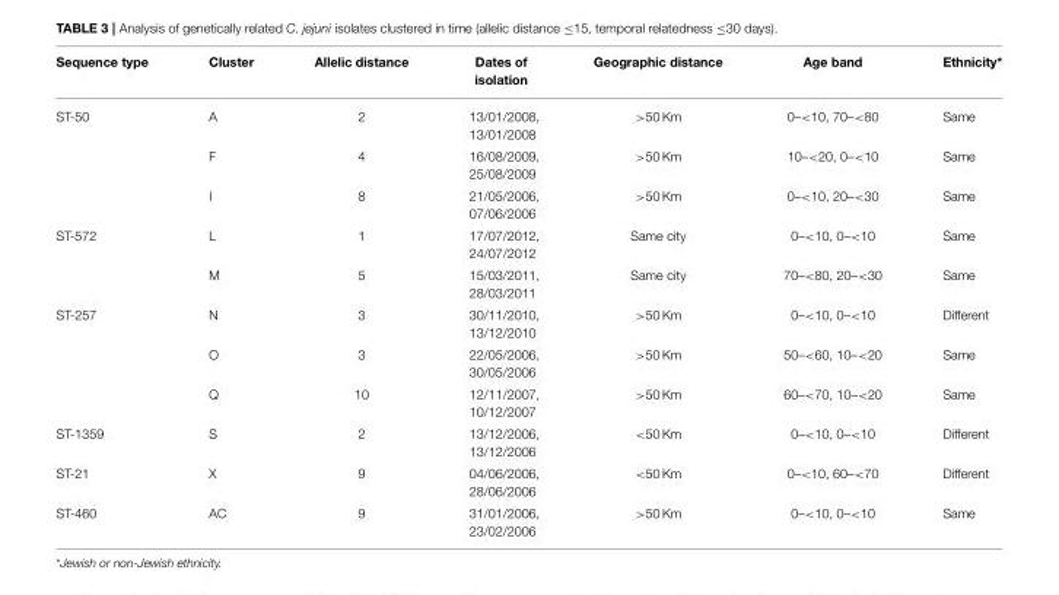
<table><thead><tr><td>Sequence type</td><td>Cluster</td><td>Allelic distance</td><td>Dates of isolation</td><td>Geographic distance</td><td>Age band</td><td>Ethnicity*</td></tr></thead><tbody><tr><td rowspan="3">ST-50</td><td>A</td><td>2</td><td>13/01/2008, 13/01/2008</td><td>&gt;50 Km</td><td>0–&lt;10, 70–&lt;80</td><td>Same</td></tr><tr><td>F</td><td>4</td><td>16/08/2009, 25/08/2009</td><td>&gt;50 Km</td><td>10–&lt;20, 0–&lt;10</td><td>Same</td></tr><tr><td>I</td><td>8</td><td>21/05/2006, 07/06/2006</td><td>&gt;50 Km</td><td>0–&lt;10, 20–&lt;30</td><td>Same</td></tr><tr><td rowspan="2">ST-572</td><td>L</td><td>1</td><td>17/07/2012, 24/07/2012</td><td>Same city</td><td>0–&lt;10, 0–&lt;10</td><td>Same</td></tr><tr><td>M</td><td>5</td><td>15/03/2011, 28/03/2011</td><td>Same city</td><td>70–&lt;80, 20–&lt;30</td><td>Same</td></tr><tr><td rowspan="3">ST-257</td><td>N</td><td>3</td><td>30/11/2010, 13/12/2010</td><td>&gt;50 Km</td><td>0–&lt;10, 0–&lt;10</td><td>Different</td></tr><tr><td>O</td><td>3</td><td>22/05/2006, 30/05/2006</td><td>&gt;50 Km</td><td>50–&lt;60, 10–&lt;20</td><td>Same</td></tr><tr><td>Q</td><td>10</td><td>12/11/2007, 10/12/2007</td><td>&gt;50 Km</td><td>60–&lt;70, 10–&lt;20</td><td>Same</td></tr><tr><td>ST-1359</td><td>S</td><td>2</td><td>13/12/2006, 13/12/2006</td><td>&lt;50 Km</td><td>0–&lt;10, 0–&lt;10</td><td>Different</td></tr><tr><td>ST-21</td><td>X</td><td>9</td><td>04/06/2006, 28/06/2006</td><td>&lt;50 Km</td><td>0–&lt;10, 60–&lt;70</td><td>Different</td></tr><tr><td>ST-460</td><td>AC</td><td>9</td><td>31/01/2006, 23/02/2006</td><td>&gt;50 Km</td><td>0–&lt;10, 0–&lt;10</td><td>Same</td></tr></tbody></table>